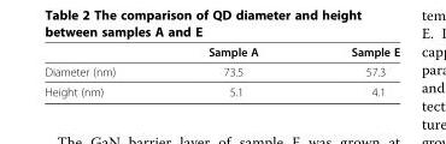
<table><thead><tr><td></td><td>Sample A</td><td>Sample E</td></tr></thead><tbody><tr><td>Diameter (nm)</td><td>73.5</td><td>57.3</td></tr><tr><td>Height (nm)</td><td>5.1</td><td>4.1</td></tr></tbody></table>